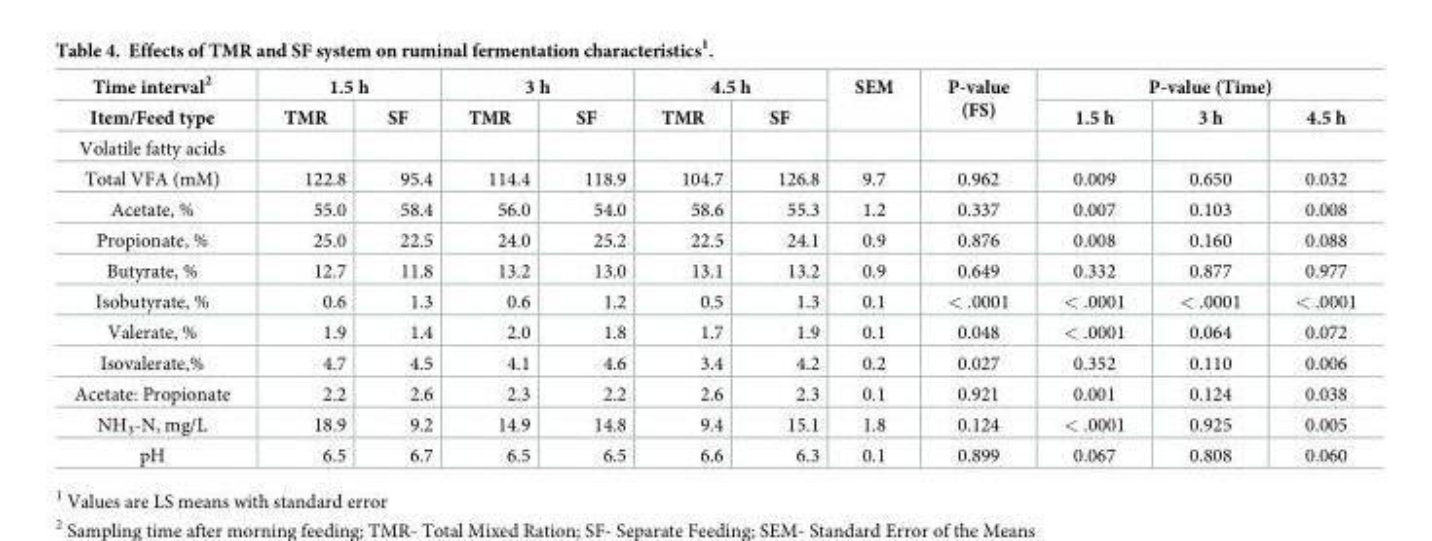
<table><thead><tr><td rowspan="2">Time interval<sup>2</sup> Item/Feed type</td><td colspan="2">1.5 h</td><td colspan="2">3 h</td><td colspan="2">4.5 h</td><td rowspan="2">SEM</td><td rowspan="2">P-value (FS)</td><td colspan="3">P-value (Time)</td></tr><tr><td>TMR</td><td>SF</td><td>TMR</td><td>SF</td><td>TMR</td><td>SF</td><td>1.5 h</td><td>3 h</td><td>4.5 h</td></tr></thead><tbody><tr><td colspan="12">Volatile fatty acids</td></tr><tr><td>Total VFA (mM)</td><td>122.8</td><td>95.4</td><td>114.4</td><td>118.9</td><td>104.7</td><td>126.8</td><td>9.7</td><td>0.962</td><td>0.009</td><td>0.650</td><td>0.032</td></tr><tr><td>Acetate, %</td><td>55.0</td><td>58.4</td><td>56.0</td><td>54.0</td><td>58.6</td><td>55.3</td><td>1.2</td><td>0.337</td><td>0.007</td><td>0.103</td><td>0.008</td></tr><tr><td>Propionate, %</td><td>25.0</td><td>22.5</td><td>24.0</td><td>25.2</td><td>22.5</td><td>24.1</td><td>0.9</td><td>0.876</td><td>0.008</td><td>0.160</td><td>0.088</td></tr><tr><td>Butyrate, %</td><td>12.7</td><td>11.8</td><td>13.2</td><td>13.0</td><td>13.1</td><td>13.2</td><td>0.9</td><td>0.649</td><td>0.332</td><td>0.877</td><td>0.977</td></tr><tr><td>Isobutyrate, %</td><td>0.6</td><td>1.3</td><td>0.6</td><td>1.2</td><td>0.5</td><td>1.3</td><td>0.1</td><td>&lt; .0001</td><td>&lt; .0001</td><td>&lt; .0001</td><td>&lt; .0001</td></tr><tr><td>Valerate, %</td><td>1.9</td><td>1.4</td><td>2.0</td><td>1.8</td><td>1.7</td><td>1.9</td><td>0.1</td><td>0.048</td><td>&lt; .0001</td><td>0.064</td><td>0.072</td></tr><tr><td>Isovalerate,%</td><td>4.7</td><td>4.5</td><td>4.1</td><td>4.6</td><td>3.4</td><td>4.2</td><td>0.2</td><td>0.027</td><td>0.352</td><td>0.110</td><td>0.006</td></tr><tr><td>Acetate: Propionate</td><td>2.2</td><td>2.6</td><td>2.3</td><td>2.2</td><td>2.6</td><td>2.3</td><td>0.1</td><td>0.921</td><td>0.001</td><td>0.124</td><td>0.038</td></tr><tr><td>NH<sub>3</sub>-N, mg/L</td><td>18.9</td><td>9.2</td><td>14.9</td><td>14.8</td><td>9.4</td><td>15.1</td><td>1.8</td><td>0.124</td><td>&lt; .0001</td><td>0.925</td><td>0.005</td></tr><tr><td>pH</td><td>6.5</td><td>6.7</td><td>6.5</td><td>6.5</td><td>6.6</td><td>6.3</td><td>0.1</td><td>0.899</td><td>0.067</td><td>0.808</td><td>0.060</td></tr></tbody></table>